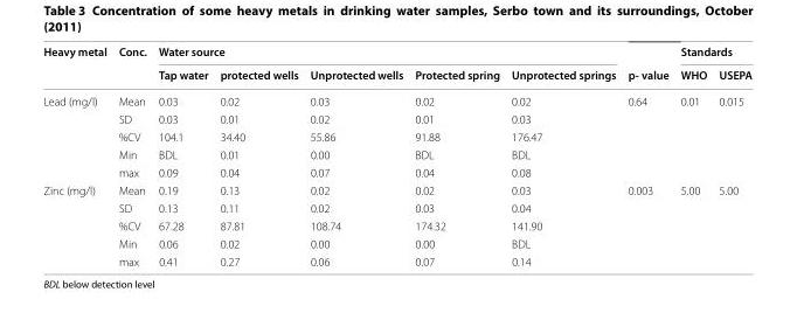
<table><thead><tr><td rowspan="2">Heavy metal</td><td rowspan="2">Conc.</td><td colspan="5">Water source</td><td rowspan="2">p‑ value</td><td colspan="2">Standards</td></tr><tr><td>Tap water</td><td>protected wells</td><td>Unprotected wells</td><td>Protected spring</td><td>Unprotected springs</td><td>WHO</td><td>USEPA</td></tr></thead><tbody><tr><td rowspan="5">Lead (mg/l)</td><td>Mean</td><td>0.03</td><td>0.02</td><td>0.03</td><td>0.02</td><td>0.02</td><td rowspan="5">0.64</td><td rowspan="5">0.01</td><td rowspan="5">0.015</td></tr><tr><td>SD</td><td>0.03</td><td>0.01</td><td>0.02</td><td>0.01</td><td>0.03</td></tr><tr><td>%CV</td><td>104.1</td><td>34.40</td><td>55.86</td><td>91.88</td><td>176.47</td></tr><tr><td>Min</td><td>BDL</td><td>0.01</td><td>0.00</td><td>BDL</td><td>BDL</td></tr><tr><td>max</td><td>0.09</td><td>0.04</td><td>0.07</td><td>0.04</td><td>0.08</td></tr><tr><td rowspan="5">Zinc (mg/l)</td><td>Mean</td><td>0.19</td><td>0.13</td><td>0.02</td><td>0.02</td><td>0.03</td><td rowspan="5">0.003</td><td rowspan="5">5.00</td><td rowspan="5">5.00</td></tr><tr><td>SD</td><td>0.13</td><td>0.11</td><td>0.02</td><td>0.03</td><td>0.04</td></tr><tr><td>%CV</td><td>67.28</td><td>87.81</td><td>108.74</td><td>174.32</td><td>141.90</td></tr><tr><td>Min</td><td>0.06</td><td>0.02</td><td>0.00</td><td>0.00</td><td>BDL</td></tr><tr><td>max</td><td>0.41</td><td>0.27</td><td>0.06</td><td>0.07</td><td>0.14</td></tr></tbody></table>